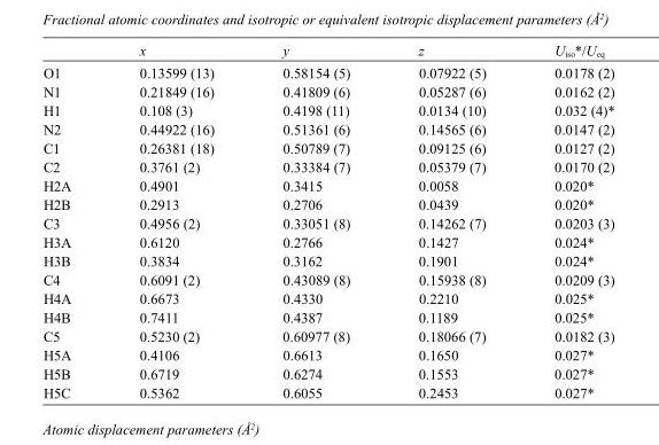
<table><thead><tr><td></td><td>x</td><td>y</td><td>z</td><td>U<sub>iso</sub>*/U<sub>eq</sub></td></tr></thead><tbody><tr><td>O1</td><td>0.13599 (13)</td><td>0.58154 (5)</td><td>0.07922 (5)</td><td>0.0178 (2)</td></tr><tr><td>N1</td><td>0.21849 (16)</td><td>0.41809 (6)</td><td>0.05287 (6)</td><td>0.0162 (2)</td></tr><tr><td>H1</td><td>0.108 (3)</td><td>0.4198 (11)</td><td>0.0134 (10)</td><td>0.032 (4)*</td></tr><tr><td>N2</td><td>0.44922 (16)</td><td>0.51361 (6)</td><td>0.14565 (6)</td><td>0.0147 (2)</td></tr><tr><td>C1</td><td>0.26381 (18)</td><td>0.50789 (7)</td><td>0.09125 (6)</td><td>0.0127 (2)</td></tr><tr><td>C2</td><td>0.3761 (2)</td><td>0.33384 (7)</td><td>0.05379 (7)</td><td>0.0170 (2)</td></tr><tr><td>H2A</td><td>0.4901</td><td>0.3415</td><td>0.0058</td><td>0.020*</td></tr><tr><td>H2B</td><td>0.2913</td><td>0.2706</td><td>0.0439</td><td>0.020*</td></tr><tr><td>C3</td><td>0.4956 (2)</td><td>0.33051 (8)</td><td>0.14262 (7)</td><td>0.0203 (3)</td></tr><tr><td>H3A</td><td>0.6120</td><td>0.2766</td><td>0.1427</td><td>0.024*</td></tr><tr><td>H3B</td><td>0.3834</td><td>0.3162</td><td>0.1901</td><td>0.024*</td></tr><tr><td>C4</td><td>0.6091 (2)</td><td>0.43089 (8)</td><td>0.15938 (8)</td><td>0.0209 (3)</td></tr><tr><td>H4A</td><td>0.6673</td><td>0.4330</td><td>0.2210</td><td>0.025*</td></tr><tr><td>H4B</td><td>0.7411</td><td>0.4387</td><td>0.1189</td><td>0.025*</td></tr><tr><td>C5</td><td>0.5230 (2)</td><td>0.60977 (8)</td><td>0.18066 (7)</td><td>0.0182 (3)</td></tr><tr><td>H5A</td><td>0.4106</td><td>0.6613</td><td>0.1650</td><td>0.027*</td></tr><tr><td>H5B</td><td>0.6719</td><td>0.6274</td><td>0.1553</td><td>0.027*</td></tr><tr><td>H5C</td><td>0.5362</td><td>0.6055</td><td>0.2453</td><td>0.027*</td></tr></tbody></table>